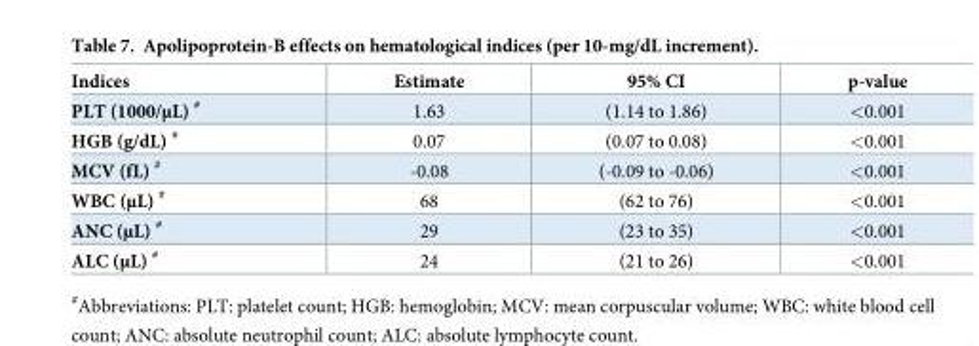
<table><thead><tr><td>Indices</td><td>Estimate</td><td>95% CI</td><td>p-value</td></tr></thead><tbody><tr><td>PLT (1000/μL) <sup>#</sup></td><td>1.63</td><td>(1.14 to 1.86)</td><td>&lt;0.001</td></tr><tr><td>HGB (g/dL) <sup>#</sup></td><td>0.07</td><td>(0.07 to 0.08)</td><td>&lt;0.001</td></tr><tr><td>MCV (fL) <sup>#</sup></td><td>-0.08</td><td>(-0.09 to -0.06)</td><td>&lt;0.001</td></tr><tr><td>WBC (μL) <sup>#</sup></td><td>68</td><td>(62 to 76)</td><td>&lt;0.001</td></tr><tr><td>ANC (μL) <sup>#</sup></td><td>29</td><td>(23 to 35)</td><td>&lt;0.001</td></tr><tr><td>ALC (μL) <sup>#</sup></td><td>24</td><td>(21 to 26)</td><td>&lt;0.001</td></tr></tbody></table>